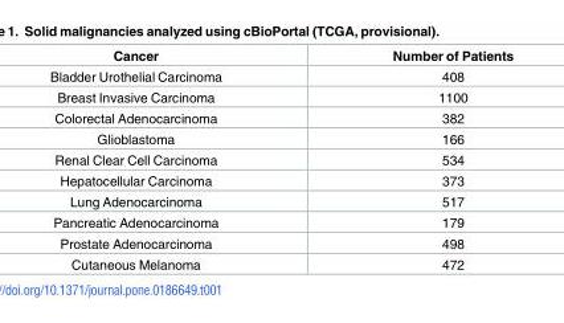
<table><thead><tr><td>Cancer</td><td>Number of Patients</td></tr></thead><tbody><tr><td>Bladder Urothelial Carcinoma</td><td>408</td></tr><tr><td>Breast Invasive Carcinoma</td><td>1100</td></tr><tr><td>Colorectal Adenocarcinoma</td><td>382</td></tr><tr><td>Glioblastoma</td><td>166</td></tr><tr><td>Renal Clear Cell Carcinoma</td><td>534</td></tr><tr><td>Hepatocellular Carcinoma</td><td>373</td></tr><tr><td>Lung Adenocarcinoma</td><td>517</td></tr><tr><td>Pancreatic Adenocarcinoma</td><td>179</td></tr><tr><td>Prostate Adenocarcinoma</td><td>498</td></tr><tr><td>Cutaneous Melanoma</td><td>472</td></tr></tbody></table>